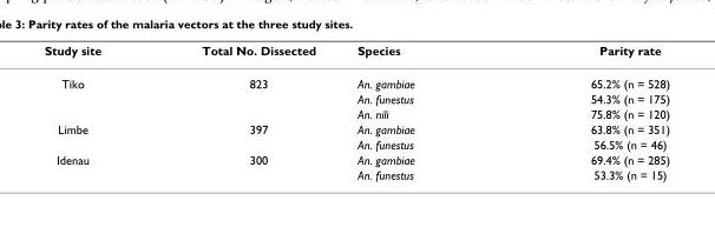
<table><thead><tr><td>Study site</td><td>Total No. Dissected</td><td>Species</td><td>Parity rate</td></tr></thead><tbody><tr><td rowspan="3">Tiko</td><td>823</td><td>An. gambiae</td><td>65.2% (n = 528)</td></tr><tr><td></td><td>An. funestus</td><td>54.3% (n = 175)</td></tr><tr><td></td><td>An. nili</td><td>75.8% (n = 120)</td></tr><tr><td rowspan="2">Limbe</td><td>397</td><td>An. gambiae</td><td>63.8% (n = 351)</td></tr><tr><td></td><td>An. funestus</td><td>56.5% (n = 46)</td></tr><tr><td rowspan="2">Idenau</td><td>300</td><td>An. gambiae</td><td>69.4% (n = 285)</td></tr><tr><td></td><td>An. funestus</td><td>53.3% (n = 15)</td></tr></tbody></table>